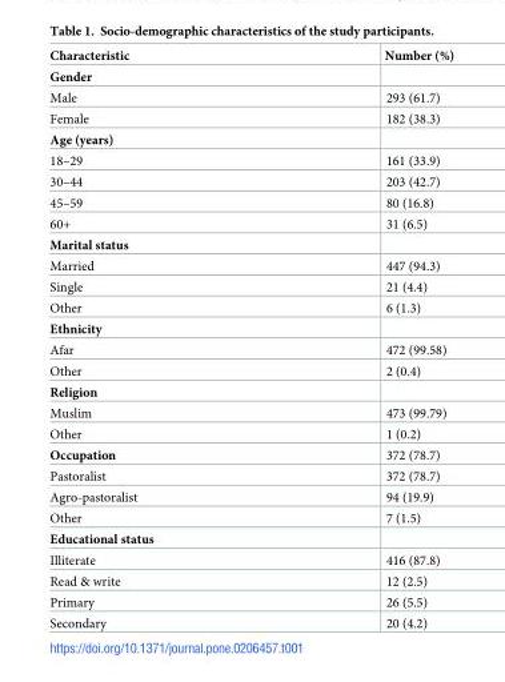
<table><thead><tr><td>Characteristic</td><td>Number (%)</td></tr></thead><tbody><tr><td colspan="2">Gender</td></tr><tr><td>Male</td><td>293 (61.7)</td></tr><tr><td>Female</td><td>182 (38.3)</td></tr><tr><td colspan="2">Age (years)</td></tr><tr><td>18–29</td><td>161 (33.9)</td></tr><tr><td>30–44</td><td>203 (42.7)</td></tr><tr><td>45–59</td><td>80 (16.8)</td></tr><tr><td>60+</td><td>31 (6.5)</td></tr><tr><td colspan="2">Marital status</td></tr><tr><td>Married</td><td>447 (94.3)</td></tr><tr><td>Single</td><td>21 (4.4)</td></tr><tr><td>Other</td><td>6 (1.3)</td></tr><tr><td colspan="2">Ethnicity</td></tr><tr><td>Afar</td><td>472 (99.58)</td></tr><tr><td>Other</td><td>2 (0.4)</td></tr><tr><td colspan="2">Religion</td></tr><tr><td>Muslim</td><td>473 (99.79)</td></tr><tr><td>Other</td><td>1 (0.2)</td></tr><tr><td>Occupation</td><td>372 (78.7)</td></tr><tr><td>Pastoralist</td><td>372 (78.7)</td></tr><tr><td>Agro-pastoralist</td><td>94 (19.9)</td></tr><tr><td>Other</td><td>7 (1.5)</td></tr><tr><td colspan="2">Educational status</td></tr><tr><td>Illiterate</td><td>416 (87.8)</td></tr><tr><td>Read &amp; write</td><td>12 (2.5)</td></tr><tr><td>Primary</td><td>26 (5.5)</td></tr><tr><td>Secondary</td><td>20 (4.2)</td></tr></tbody></table>